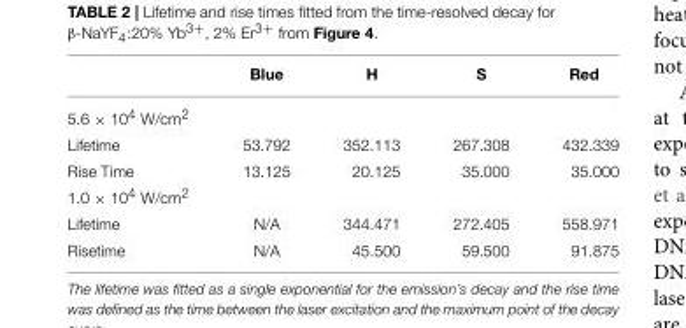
<table><thead><tr><td></td><td>Blue</td><td>H</td><td>S</td><td>Red</td></tr></thead><tbody><tr><td colspan="5">5.6 × 10<sup>4</sup> W/cm<sup>2</sup></td></tr><tr><td>Lifetime</td><td>53.792</td><td>352.113</td><td>267.308</td><td>432.339</td></tr><tr><td>Rise Time</td><td>13.125</td><td>20.125</td><td>35.000</td><td>35.000</td></tr><tr><td colspan="5">1.0 × 10<sup>4</sup> W/cm<sup>2</sup></td></tr><tr><td>Lifetime</td><td>N/A</td><td>344.471</td><td>272.405</td><td>558.971</td></tr><tr><td>Risetime</td><td>N/A</td><td>45.500</td><td>59.500</td><td>91.875</td></tr></tbody></table>